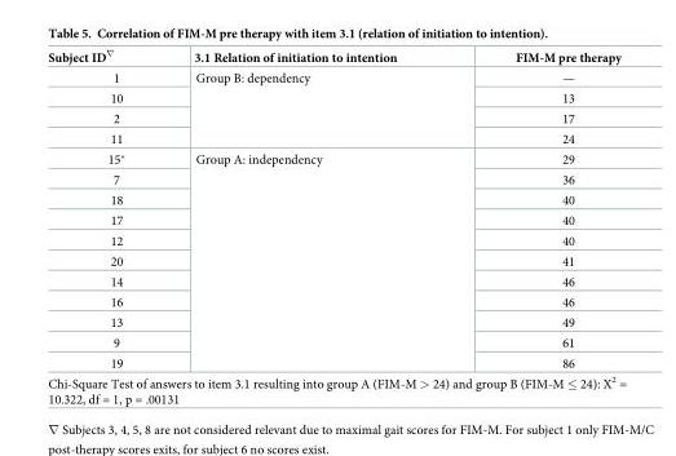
<table><thead><tr><td>Subject ID<sup>∇</sup></td><td>3.1 Relation of initiation to intention</td><td>FIM-M pre therapy</td></tr></thead><tbody><tr><td>1</td><td rowspan="4">Group B: dependency</td><td>—</td></tr><tr><td>10</td><td>13</td></tr><tr><td>2</td><td>17</td></tr><tr><td>11</td><td>24</td></tr><tr><td>15*</td><td rowspan="11">Group A: independency</td><td>29</td></tr><tr><td>7</td><td>36</td></tr><tr><td>18</td><td>40</td></tr><tr><td>17</td><td>40</td></tr><tr><td>12</td><td>40</td></tr><tr><td>20</td><td>41</td></tr><tr><td>14</td><td>46</td></tr><tr><td>16</td><td>46</td></tr><tr><td>13</td><td>49</td></tr><tr><td>9</td><td>61</td></tr><tr><td>19</td><td>86</td></tr><tr><td colspan="3">Chi-Square Test of answers to item 3.1 resulting into group A (FIM-M &gt; 24) and group B (FIM-M ≤ 24): X<sup>2</sup> = 10.322, df = 1, p = .00131</td></tr></tbody></table>